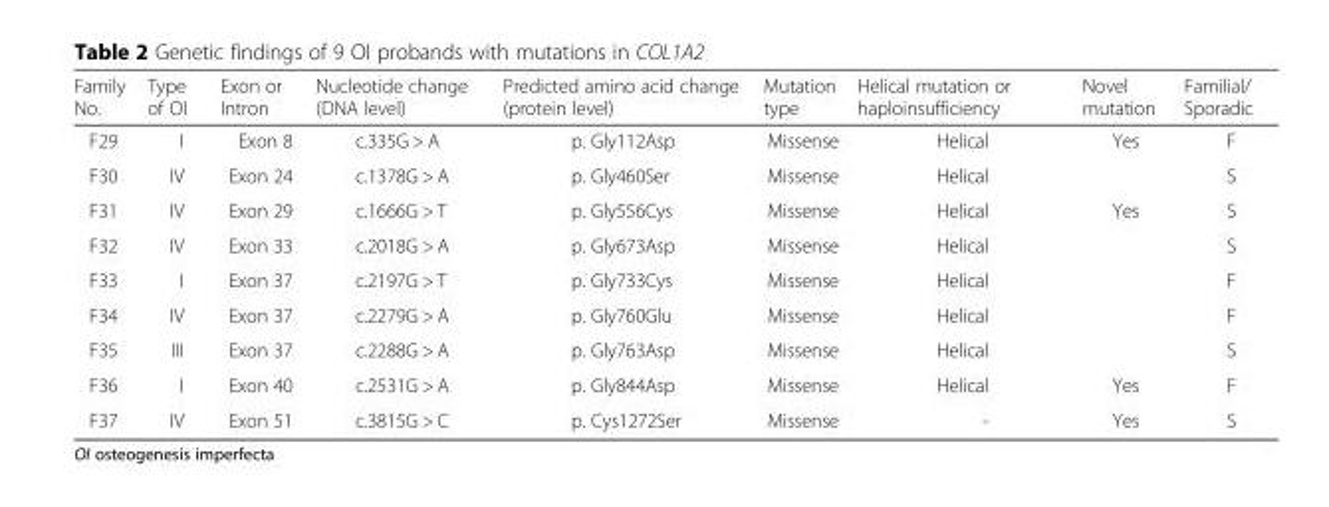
<table><thead><tr><td>Family No.</td><td>Type of OI</td><td>Exon or Intron</td><td>Nucleotide change (DNA level)</td><td>Predicted amino acid change (protein level)</td><td>Mutation type</td><td>Helical mutation or haploinsufficiency</td><td>Novel mutation</td><td>Familial/ Sporadic</td></tr></thead><tbody><tr><td>F29</td><td>I</td><td>Exon 8</td><td>c.335G &gt; A</td><td>p. Gly112Asp</td><td>Missense</td><td>Helical</td><td>Yes</td><td>F</td></tr><tr><td>F30</td><td>IV</td><td>Exon 24</td><td>c.1378G &gt; A</td><td>p. Gly460Ser</td><td>Missense</td><td>Helical</td><td></td><td>S</td></tr><tr><td>F31</td><td>IV</td><td>Exon 29</td><td>c.1666G &gt; T</td><td>p. Gly556Cys</td><td>Missense</td><td>Helical</td><td>Yes</td><td>S</td></tr><tr><td>F32</td><td>IV</td><td>Exon 33</td><td>c.2018G &gt; A</td><td>p. Gly673Asp</td><td>Missense</td><td>Helical</td><td></td><td>S</td></tr><tr><td>F33</td><td>I</td><td>Exon 37</td><td>c.2197G &gt; T</td><td>p. Gly733Cys</td><td>Missense</td><td>Helical</td><td></td><td>F</td></tr><tr><td>F34</td><td>IV</td><td>Exon 37</td><td>c.2279G &gt; A</td><td>p. Gly760Glu</td><td>Missense</td><td>Helical</td><td></td><td>F</td></tr><tr><td>F35</td><td>III</td><td>Exon 37</td><td>c.2288G &gt; A</td><td>p. Gly763Asp</td><td>Missense</td><td>Helical</td><td></td><td>S</td></tr><tr><td>F36</td><td>I</td><td>Exon 40</td><td>c.2531G &gt; A</td><td>p. Gly844Asp</td><td>Missense</td><td>Helical</td><td>Yes</td><td>F</td></tr><tr><td>F37</td><td>IV</td><td>Exon 51</td><td>c.3815G &gt; C</td><td>p. Cys1272Ser</td><td>Missense</td><td>-</td><td>Yes</td><td>S</td></tr></tbody></table>